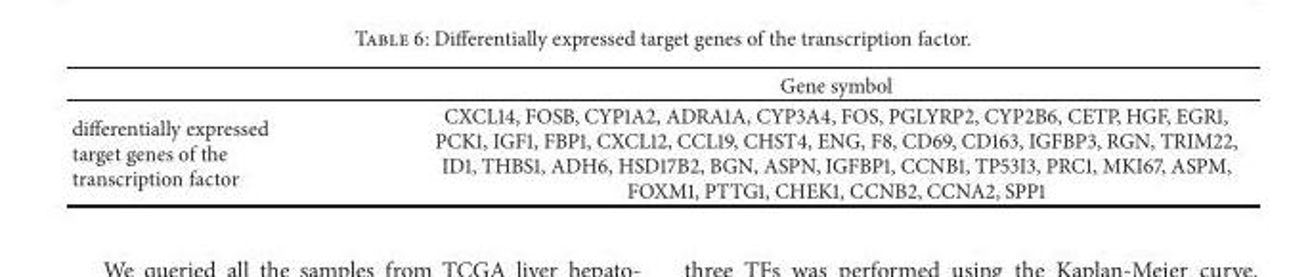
<table><thead><tr><td></td><td>Gene symbol</td></tr></thead><tbody><tr><td>differentially expressed target genes of the transcription factor</td><td>CXCL14, FOSB, CYP1A2, ADRA1A, CYP3A4, FOS, PGLYRP2, CYP2B6, CETP, HGF, EGR1, PCK1, IGF1, FBP1, CXCL12, CCL19, CHST4, ENG, F8, CD69, CD163, IGFBP3, RGN, TRIM22, ID1, THBS1, ADH6, HSD17B2, BGN, ASPN, IGFBP1, CCNB1, TP53I3, PRC1, MKI67, ASPM, FOXM1, PTTG1, CHEK1, CCNB2, CCNA2, SPP1</td></tr></tbody></table>